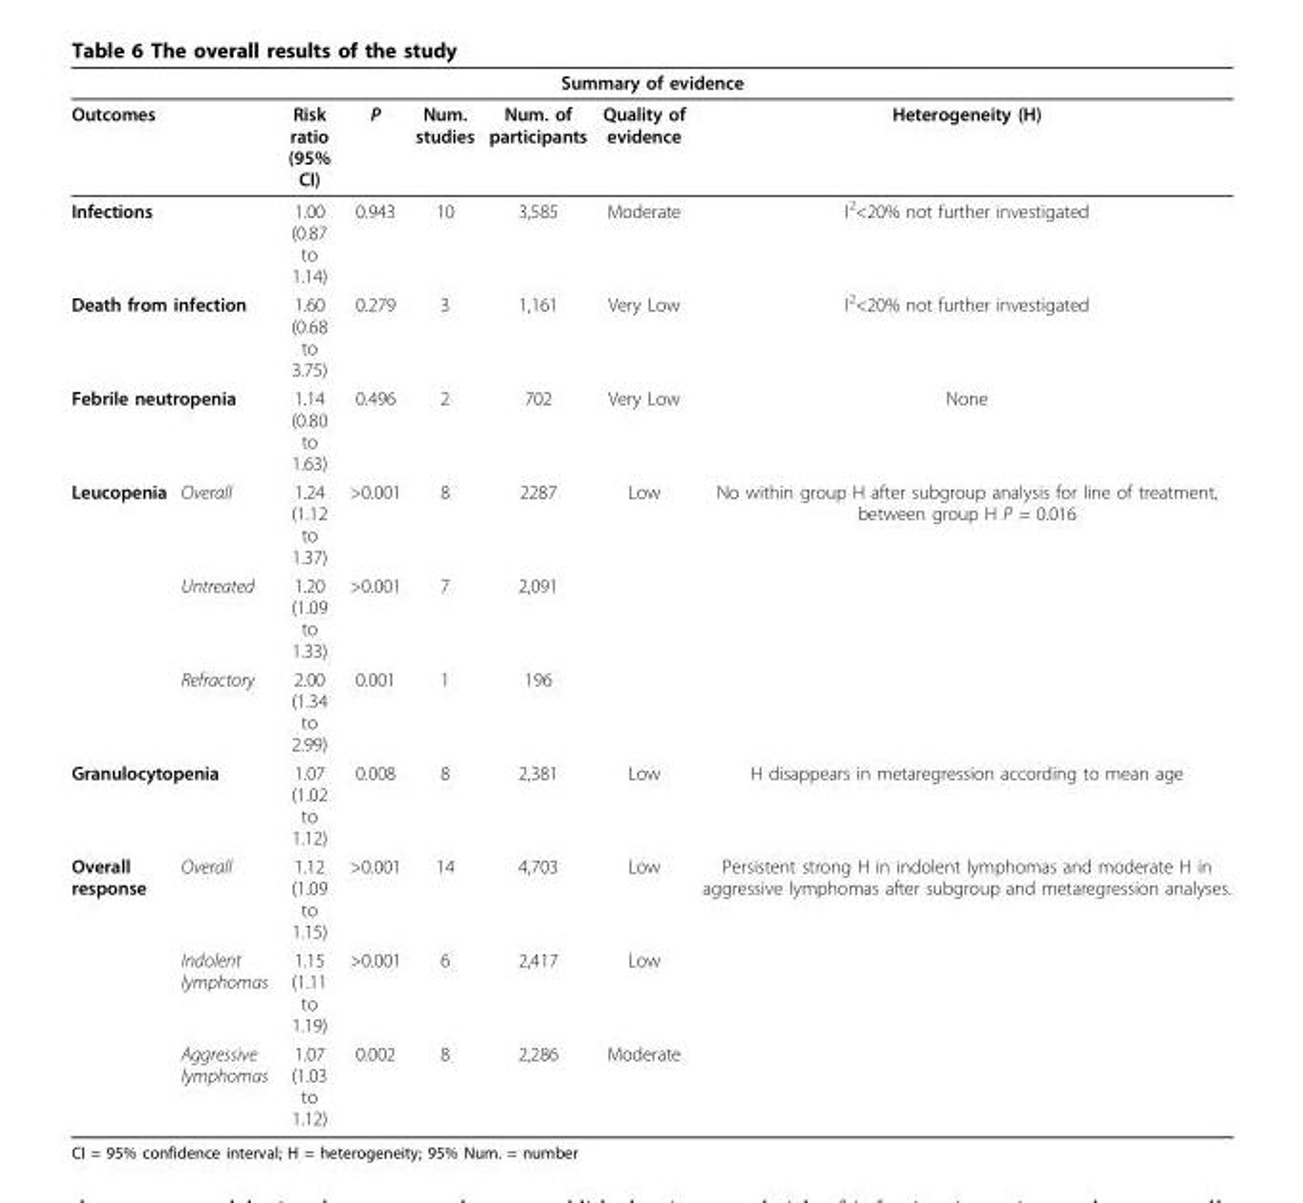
<table><thead><tr><td colspan="8">Summary of evidence</td></tr></thead><tbody><tr><td colspan="2">Outcomes</td><td>Risk ratio (95% CI)</td><td>P</td><td>Num. studies</td><td>Num. of participants</td><td>Quality of evidence</td><td>Heterogeneity (H)</td></tr><tr><td colspan="2">Infections</td><td>1.00 (0.87 to 1.14)</td><td>0.943</td><td>10</td><td>3,585</td><td>Moderate</td><td>I<sup>2</sup>&lt;20% not further investigated</td></tr><tr><td colspan="2">Death from infection</td><td>1.60 (0.68 to 3.75)</td><td>0.279</td><td>3</td><td>1,161</td><td>Very Low</td><td>I<sup>2</sup>&lt;20% not further investigated</td></tr><tr><td colspan="2">Febrile neutropenia</td><td>1.14 (0.80 to 1.63)</td><td>0.496</td><td>2</td><td>702</td><td>Very Low</td><td>None</td></tr><tr><td rowspan="3">Leucopenia</td><td>Overall</td><td>1.24 (1.12 to 1.37)</td><td>&gt;0.001</td><td>8</td><td>2287</td><td>Low</td><td>No within group H after subgroup analysis for line of treatment, between group H P = 0.016</td></tr><tr><td>Untreated</td><td>1.20 (1.09 to 1.33)</td><td>&gt;0.001</td><td>7</td><td>2,091</td><td></td><td></td></tr><tr><td>Refractory</td><td>2.00 (1.34 to 2.99)</td><td>0.001</td><td>1</td><td>196</td><td></td><td></td></tr><tr><td colspan="2">Granulocytopenia</td><td>1.07 (1.02 to 1.12)</td><td>0.008</td><td>8</td><td>2,381</td><td>Low</td><td>H disappears in metaregression according to mean age</td></tr><tr><td rowspan="3">Overall response</td><td>Overall</td><td>1.12 (1.09 to 1.15)</td><td>&gt;0.001</td><td>14</td><td>4,703</td><td>Low</td><td>Persistent strong H in indolent lymphomas and moderate H in aggressive lymphomas after subgroup and metaregression analyses.</td></tr><tr><td>Indolent lymphomas</td><td>1.15 (1.11 to 1.19)</td><td>&gt;0.001</td><td>6</td><td>2,417</td><td>Low</td><td></td></tr><tr><td>Aggressive lymphomas</td><td>1.07 (1.03 to 1.12)</td><td>0.002</td><td>8</td><td>2,286</td><td>Moderate</td><td></td></tr></tbody></table>